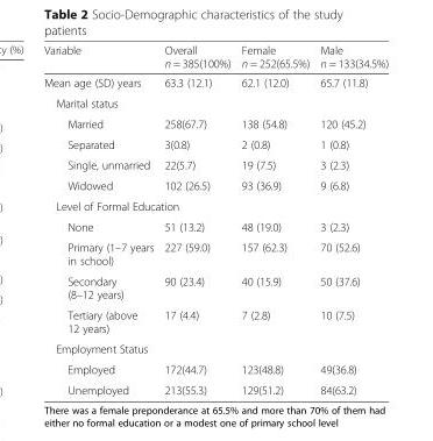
<table><thead><tr><td>Variable</td><td>Overall n = 385(100%)</td><td>Female n = 252(65.5%)</td><td>Male n = 133(34.5%)</td></tr></thead><tbody><tr><td>Mean age (SD) years</td><td>63.3 (12.1)</td><td>62.1 (12.0)</td><td>65.7 (11.8)</td></tr><tr><td colspan="4">Marital status</td></tr><tr><td>Married</td><td>258(67.7)</td><td>138 (54.8)</td><td>120 (45.2)</td></tr><tr><td>Separated</td><td>3(0.8)</td><td>2 (0.8)</td><td>1 (0.8)</td></tr><tr><td>Single, unmarried</td><td>22(5.7)</td><td>19 (7.5)</td><td>3 (2.3)</td></tr><tr><td>Widowed</td><td>102 (26.5)</td><td>93 (36.9)</td><td>9 (6.8)</td></tr><tr><td colspan="4">Level of Formal Education</td></tr><tr><td>None</td><td>51 (13.2)</td><td>48 (19.0)</td><td>3 (2.3)</td></tr><tr><td>Primary (1–7 years in school)</td><td>227 (59.0)</td><td>157 (62.3)</td><td>70 (52.6)</td></tr><tr><td>Secondary (8–12 years)</td><td>90 (23.4)</td><td>40 (15.9)</td><td>50 (37.6)</td></tr><tr><td>Tertiary (above 12 years)</td><td>17 (4.4)</td><td>7 (2.8)</td><td>10 (7.5)</td></tr><tr><td colspan="4">Employment Status</td></tr><tr><td>Employed</td><td>172(44.7)</td><td>123(48.8)</td><td>49(36.8)</td></tr><tr><td>Unemployed</td><td>213(55.3)</td><td>129(51.2)</td><td>84(63.2)</td></tr></tbody></table>